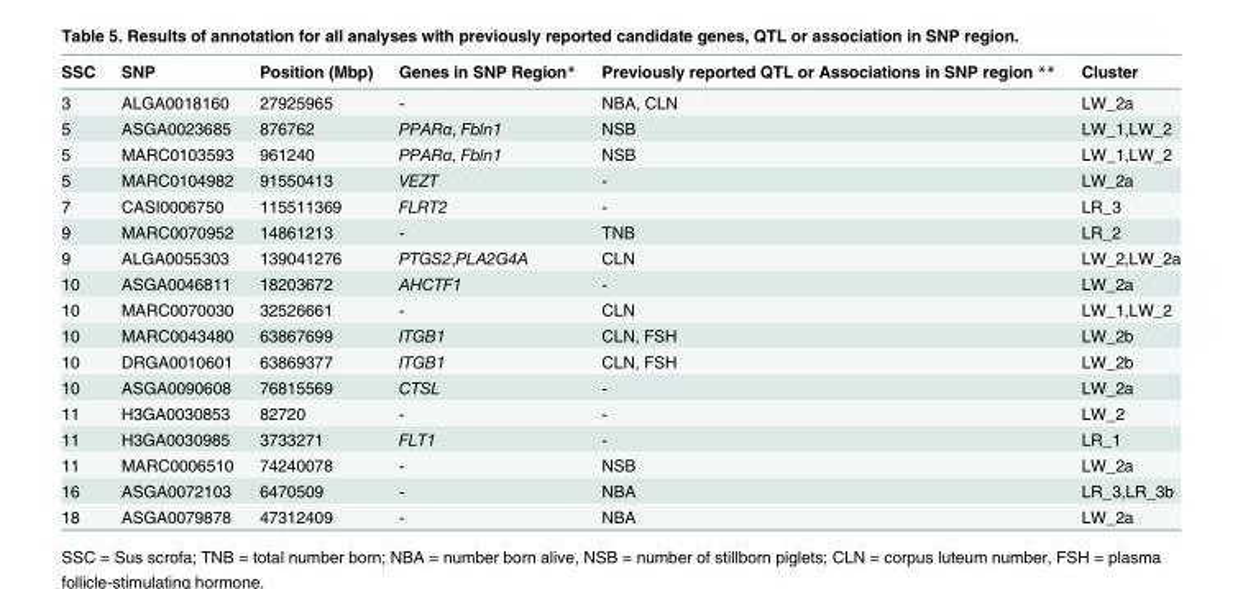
<table><thead><tr><td>SSC</td><td>SNP</td><td>Position (Mbp)</td><td>Genes in SNP Region*</td><td>Previously reported QTL or Associations in SNP region **</td><td>Cluster</td></tr></thead><tbody><tr><td>3</td><td>ALGA0018160</td><td>27925965</td><td>-</td><td>NBA, CLN</td><td>LW_2a</td></tr><tr><td>5</td><td>ASGA0023685</td><td>876762</td><td>PPARα, Fbln1</td><td>NSB</td><td>LW_1,LW_2</td></tr><tr><td>5</td><td>MARC0103593</td><td>961240</td><td>PPARα, Fbln1</td><td>NSB</td><td>LW_1,LW_2</td></tr><tr><td>5</td><td>MARC0104982</td><td>91550413</td><td>VEZT</td><td>-</td><td>LW_2a</td></tr><tr><td>7</td><td>CASI0006750</td><td>115511369</td><td>FLRT2</td><td>-</td><td>LR_3</td></tr><tr><td>9</td><td>MARC0070952</td><td>14861213</td><td>-</td><td>TNB</td><td>LR_2</td></tr><tr><td>9</td><td>ALGA0055303</td><td>139041276</td><td>PTGS2,PLA2G4A</td><td>CLN</td><td>LW_2,LW_2a</td></tr><tr><td>10</td><td>ASGA0046811</td><td>18203672</td><td>AHCTF1</td><td>-</td><td>LW_2a</td></tr><tr><td>10</td><td>MARC0070030</td><td>32526661</td><td>-</td><td>CLN</td><td>LW_1,LW_2</td></tr><tr><td>10</td><td>MARC0043480</td><td>63867699</td><td>ITGB1</td><td>CLN, FSH</td><td>LW_2b</td></tr><tr><td>10</td><td>DRGA0010601</td><td>63869377</td><td>ITGB1</td><td>CLN, FSH</td><td>LW_2b</td></tr><tr><td>10</td><td>ASGA0090608</td><td>76815569</td><td>CTSL</td><td>-</td><td>LW_2a</td></tr><tr><td>11</td><td>H3GA0030853</td><td>82720</td><td>-</td><td>-</td><td>LW_2</td></tr><tr><td>11</td><td>H3GA0030985</td><td>3733271</td><td>FLT1</td><td>-</td><td>LR_1</td></tr><tr><td>11</td><td>MARC0006510</td><td>74240078</td><td>-</td><td>NSB</td><td>LW_2a</td></tr><tr><td>16</td><td>ASGA0072103</td><td>6470509</td><td>-</td><td>NBA</td><td>LR_3,LR_3b</td></tr><tr><td>18</td><td>ASGA0079878</td><td>47312409</td><td>-</td><td>NBA</td><td>LW_2a</td></tr></tbody></table>